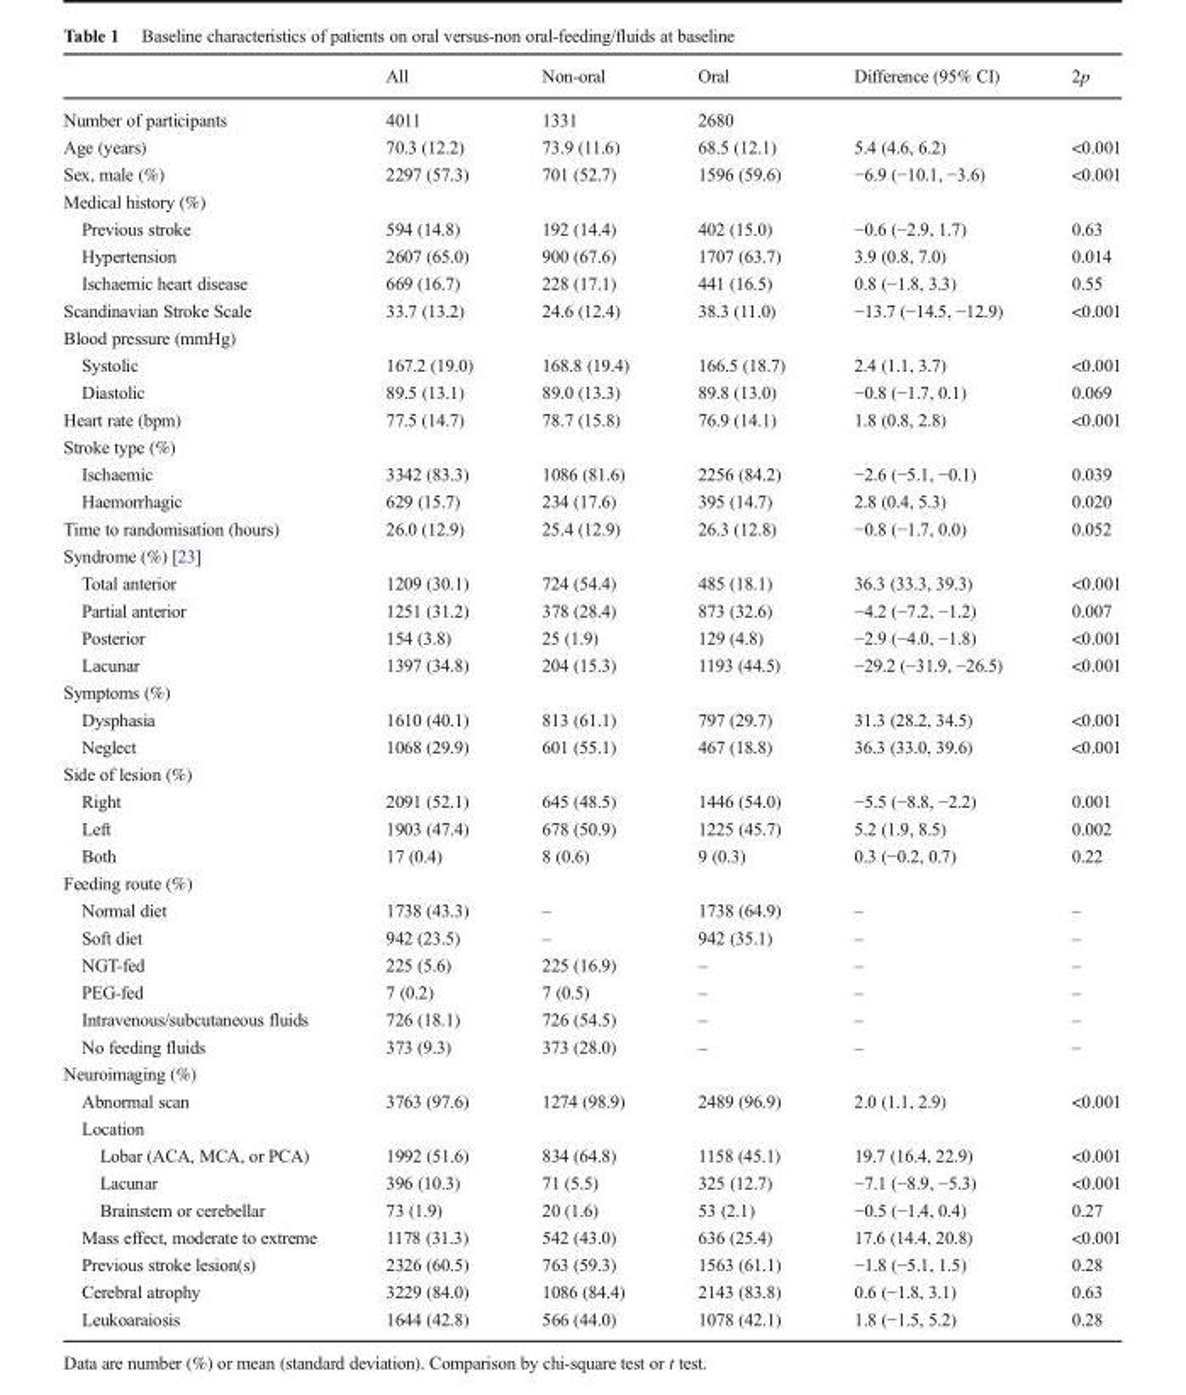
<table><thead><tr><td></td><td>All</td><td>Non-oral</td><td>Oral</td><td>Difference (95% CI)</td><td>2p</td></tr></thead><tbody><tr><td>Number of participants</td><td>4011</td><td>1331</td><td>2680</td><td></td><td></td></tr><tr><td>Age (years)</td><td>70.3 (12.2)</td><td>73.9 (11.6)</td><td>68.5 (12.1)</td><td>5.4 (4.6, 6.2)</td><td>&lt;0.001</td></tr><tr><td>Sex, male (%)</td><td>2297 (57.3)</td><td>701 (52.7)</td><td>1596 (59.6)</td><td>−6.9 (−10.1, −3.6)</td><td>&lt;0.001</td></tr><tr><td colspan="6">Medical history (%)</td></tr><tr><td>Previous stroke</td><td>594 (14.8)</td><td>192 (14.4)</td><td>402 (15.0)</td><td>−0.6 (−2.9, 1.7)</td><td>0.63</td></tr><tr><td>Hypertension</td><td>2607 (65.0)</td><td>900 (67.6)</td><td>1707 (63.7)</td><td>3.9 (0.8, 7.0)</td><td>0.014</td></tr><tr><td>Ischaemic heart disease</td><td>669 (16.7)</td><td>228 (17.1)</td><td>441 (16.5)</td><td>0.8 (−1.8, 3.3)</td><td>0.55</td></tr><tr><td>Scandinavian Stroke Scale</td><td>33.7 (13.2)</td><td>24.6 (12.4)</td><td>38.3 (11.0)</td><td>−13.7 (−14.5, −12.9)</td><td>&lt;0.001</td></tr><tr><td colspan="6">Blood pressure (mmHg)</td></tr><tr><td>Systolic</td><td>167.2 (19.0)</td><td>168.8 (19.4)</td><td>166.5 (18.7)</td><td>2.4 (1.1, 3.7)</td><td>&lt;0.001</td></tr><tr><td>Diastolic</td><td>89.5 (13.1)</td><td>89.0 (13.3)</td><td>89.8 (13.0)</td><td>−0.8 (−1.7, 0.1)</td><td>0.069</td></tr><tr><td>Heart rate (bpm)</td><td>77.5 (14.7)</td><td>78.7 (15.8)</td><td>76.9 (14.1)</td><td>1.8 (0.8, 2.8)</td><td>&lt;0.001</td></tr><tr><td colspan="6">Stroke type (%)</td></tr><tr><td>Ischaemic</td><td>3342 (83.3)</td><td>1086 (81.6)</td><td>2256 (84.2)</td><td>−2.6 (−5.1, −0.1)</td><td>0.039</td></tr><tr><td>Haemorrhagic</td><td>629 (15.7)</td><td>234 (17.6)</td><td>395 (14.7)</td><td>2.8 (0.4, 5.3)</td><td>0.020</td></tr><tr><td>Time to randomisation (hours)</td><td>26.0 (12.9)</td><td>25.4 (12.9)</td><td>26.3 (12.8)</td><td>−0.8 (−1.7, 0.0)</td><td>0.052</td></tr><tr><td colspan="6">Syndrome (%) [23]</td></tr><tr><td>Total anterior</td><td>1209 (30.1)</td><td>724 (54.4)</td><td>485 (18.1)</td><td>36.3 (33.3, 39.3)</td><td>&lt;0.001</td></tr><tr><td>Partial anterior</td><td>1251 (31.2)</td><td>378 (28.4)</td><td>873 (32.6)</td><td>−4.2 (−7.2, −1.2)</td><td>0.007</td></tr><tr><td>Posterior</td><td>154 (3.8)</td><td>25 (1.9)</td><td>129 (4.8)</td><td>−2.9 (−4.0, −1.8)</td><td>&lt;0.001</td></tr><tr><td>Lacunar</td><td>1397 (34.8)</td><td>204 (15.3)</td><td>1193 (44.5)</td><td>−29.2 (−31.9, −26.5)</td><td>&lt;0.001</td></tr><tr><td colspan="6">Symptoms (%)</td></tr><tr><td>Dysphasia</td><td>1610 (40.1)</td><td>813 (61.1)</td><td>797 (29.7)</td><td>31.3 (28.2, 34.5)</td><td>&lt;0.001</td></tr><tr><td>Neglect</td><td>1068 (29.9)</td><td>601 (55.1)</td><td>467 (18.8)</td><td>36.3 (33.0, 39.6)</td><td>&lt;0.001</td></tr><tr><td colspan="6">Side of lesion (%)</td></tr><tr><td>Right</td><td>2091 (52.1)</td><td>645 (48.5)</td><td>1446 (54.0)</td><td>−5.5 (−8.8, −2.2)</td><td>0.001</td></tr><tr><td>Left</td><td>1903 (47.4)</td><td>678 (50.9)</td><td>1225 (45.7)</td><td>5.2 (1.9, 8.5)</td><td>0.002</td></tr><tr><td>Both</td><td>17 (0.4)</td><td>8 (0.6)</td><td>9 (0.3)</td><td>0.3 (−0.2, 0.7)</td><td>0.22</td></tr><tr><td colspan="6">Feeding route (%)</td></tr><tr><td>Normal diet</td><td>1738 (43.3)</td><td>–</td><td>1738 (64.9)</td><td>–</td><td>–</td></tr><tr><td>Soft diet</td><td>942 (23.5)</td><td>–</td><td>942 (35.1)</td><td>–</td><td>–</td></tr><tr><td>NGT-fed</td><td>225 (5.6)</td><td>225 (16.9)</td><td>–</td><td>–</td><td>–</td></tr><tr><td>PEG-fed</td><td>7 (0.2)</td><td>7 (0.5)</td><td>–</td><td>–</td><td>–</td></tr><tr><td>Intravenous/subcutaneous fluids</td><td>726 (18.1)</td><td>726 (54.5)</td><td>–</td><td>–</td><td>–</td></tr><tr><td>No feeding fluids</td><td>373 (9.3)</td><td>373 (28.0)</td><td>–</td><td>–</td><td>–</td></tr><tr><td colspan="6">Neuroimaging (%)</td></tr><tr><td>Abnormal scan</td><td>3763 (97.6)</td><td>1274 (98.9)</td><td>2489 (96.9)</td><td>2.0 (1.1, 2.9)</td><td>&lt;0.001</td></tr><tr><td colspan="6">Location</td></tr><tr><td>Lobar (ACA, MCA, or PCA)</td><td>1992 (51.6)</td><td>834 (64.8)</td><td>1158 (45.1)</td><td>19.7 (16.4, 22.9)</td><td>&lt;0.001</td></tr><tr><td>Lacunar</td><td>396 (10.3)</td><td>71 (5.5)</td><td>325 (12.7)</td><td>−7.1 (−8.9, −5.3)</td><td>&lt;0.001</td></tr><tr><td>Brainstem or cerebellar</td><td>73 (1.9)</td><td>20 (1.6)</td><td>53 (2.1)</td><td>−0.5 (−1.4, 0.4)</td><td>0.27</td></tr><tr><td>Mass effect, moderate to extreme</td><td>1178 (31.3)</td><td>542 (43.0)</td><td>636 (25.4)</td><td>17.6 (14.4, 20.8)</td><td>&lt;0.001</td></tr><tr><td>Previous stroke lesion(s)</td><td>2326 (60.5)</td><td>763 (59.3)</td><td>1563 (61.1)</td><td>−1.8 (−5.1, 1.5)</td><td>0.28</td></tr><tr><td>Cerebral atrophy</td><td>3229 (84.0)</td><td>1086 (84.4)</td><td>2143 (83.8)</td><td>0.6 (−1.8, 3.1)</td><td>0.63</td></tr><tr><td>Leukoaraiosis</td><td>1644 (42.8)</td><td>566 (44.0)</td><td>1078 (42.1)</td><td>1.8 (−1.5, 5.2)</td><td>0.28</td></tr></tbody></table>